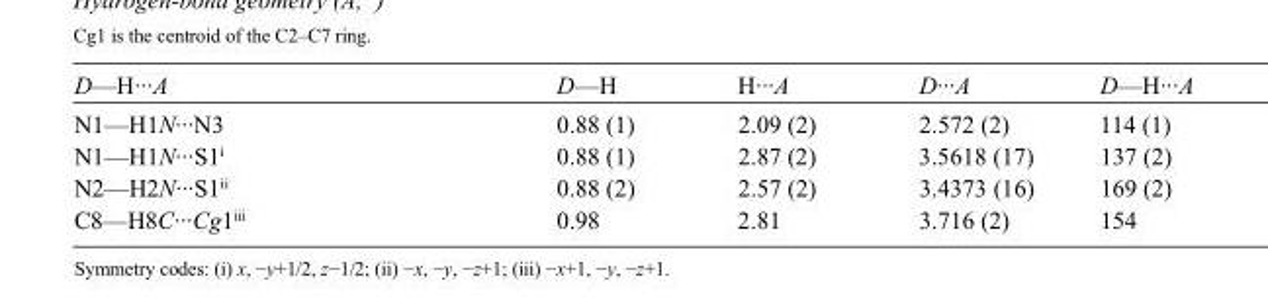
<table><tbody><tr><td>D—H···A</td><td>D—H</td><td>H···A</td><td>D···A</td><td>D—H···A</td></tr><tr><td>N1—H1N···N3</td><td>0.88 (1)</td><td>2.09 (2)</td><td>2.572 (2)</td><td>114 (1)</td></tr><tr><td>N1—H1N···S1<sup>i</sup></td><td>0.88 (1)</td><td>2.87 (2)</td><td>3.5618 (17)</td><td>137 (2)</td></tr><tr><td>N2—H2N···S1<sup>ii</sup></td><td>0.88 (2)</td><td>2.57 (2)</td><td>3.4373 (16)</td><td>169 (2)</td></tr><tr><td>C8—H8C···Cg1<sup>iii</sup></td><td>0.98</td><td>2.81</td><td>3.716 (2)</td><td>154</td></tr></tbody></table>